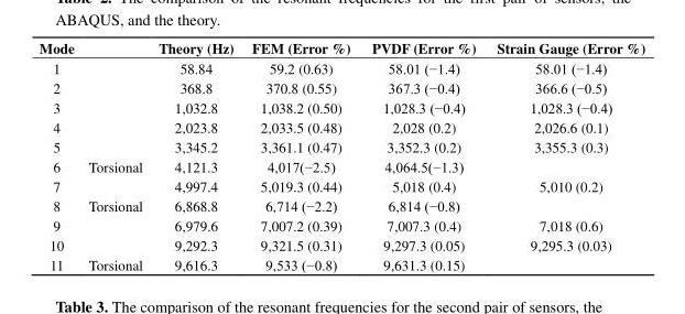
<table><thead><tr><td>Mode</td><td></td><td>Theory (Hz)</td><td>FEM (Error %)</td><td>PVDF (Error %)</td><td>Strain Gauge (Error %)</td></tr></thead><tbody><tr><td>1</td><td></td><td>58.84</td><td>59.2 (0.63)</td><td>58.01 (−1.4)</td><td>58.01 (−1.4)</td></tr><tr><td>2</td><td></td><td>368.8</td><td>370.8 (0.55)</td><td>367.3 (−0.4)</td><td>366.6 (−0.5)</td></tr><tr><td>3</td><td></td><td>1,032.8</td><td>1,038.2 (0.50)</td><td>1,028.3 (−0.4)</td><td>1,028.3 (−0.4)</td></tr><tr><td>4</td><td></td><td>2,023.8</td><td>2,033.5 (0.48)</td><td>2,028 (0.2)</td><td>2,026.6 (0.1)</td></tr><tr><td>5</td><td></td><td>3,345.2</td><td>3,361.1 (0.47)</td><td>3,352.3 (0.2)</td><td>3,355.3 (0.3)</td></tr><tr><td>6</td><td>Torsional</td><td>4,121.3</td><td>4,017(−2.5)</td><td>4,064.5(−1.3)</td><td></td></tr><tr><td>7</td><td></td><td>4,997.4</td><td>5,019.3 (0.44)</td><td>5,018 (0.4)</td><td>5,010 (0.2)</td></tr><tr><td>8</td><td>Torsional</td><td>6,868.8</td><td>6,714 (−2.2)</td><td>6,814 (−0.8)</td><td></td></tr><tr><td>9</td><td></td><td>6,979.6</td><td>7,007.2 (0.39)</td><td>7,007.3 (0.4)</td><td>7,018 (0.6)</td></tr><tr><td>10</td><td></td><td>9,292.3</td><td>9,321.5 (0.31)</td><td>9,297.3 (0.05)</td><td>9,295.3 (0.03)</td></tr><tr><td>11</td><td>Torsional</td><td>9,616.3</td><td>9,533 (−0.8)</td><td>9,631.3 (0.15)</td><td></td></tr></tbody></table>